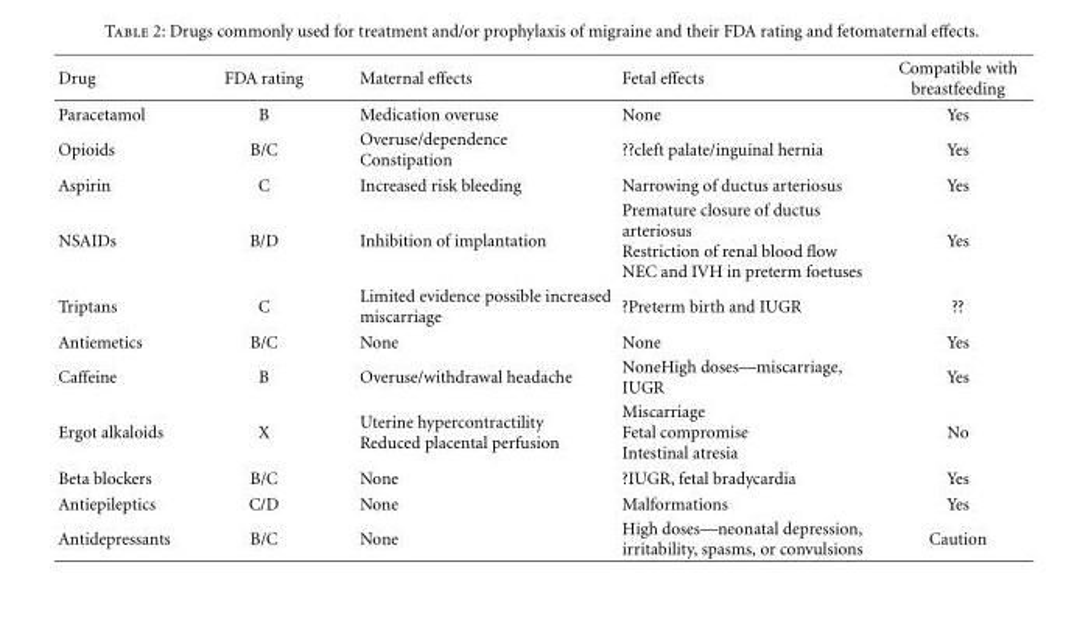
<table><thead><tr><td>Drug</td><td>FDA rating</td><td>Maternal effects</td><td>Fetal effects</td><td>Compatible with breastfeeding</td></tr></thead><tbody><tr><td>Paracetamol</td><td>B</td><td>Medication overuse</td><td>None</td><td>Yes</td></tr><tr><td>Opioids</td><td>B/C</td><td>Overuse/dependence Constipation</td><td>??cleft palate/inguinal hernia</td><td>Yes</td></tr><tr><td>Aspirin</td><td>C</td><td>Increased risk bleeding</td><td>Narrowing of ductus arteriosus</td><td>Yes</td></tr><tr><td>NSAIDs</td><td>B/D</td><td>Inhibition of implantation</td><td>Premature closure of ductus arteriosus Restriction of renal blood flow NEC and IVH in preterm foetuses</td><td>Yes</td></tr><tr><td>Triptans</td><td>C</td><td>Limited evidence possible increased miscarriage</td><td>?Preterm birth and IUGR</td><td>??</td></tr><tr><td>Antiemetics</td><td>B/C</td><td>None</td><td>None</td><td>Yes</td></tr><tr><td>Caffeine</td><td>B</td><td>Overuse/withdrawal headache</td><td>NoneHigh doses—miscarriage, IUGR</td><td>Yes</td></tr><tr><td>Ergot alkaloids</td><td>X</td><td>Uterine hypercontractility Reduced placental perfusion</td><td>Miscarriage Fetal compromise Intestinal atresia</td><td>No</td></tr><tr><td>Beta blockers</td><td>B/C</td><td>None</td><td>?IUGR, fetal bradycardia</td><td>Yes</td></tr><tr><td>Antiepileptics</td><td>C/D</td><td>None</td><td>Malformations</td><td>Yes</td></tr><tr><td>Antidepressants</td><td>B/C</td><td>None</td><td>High doses—neonatal depression, irritability, spasms, or convulsions</td><td>Caution</td></tr></tbody></table>